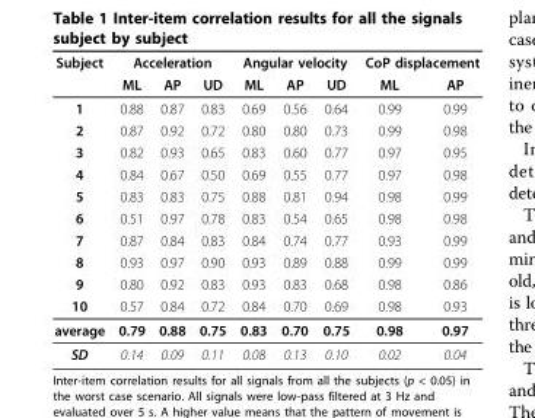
<table><thead><tr><td rowspan="2">Subject</td><td colspan="3">Acceleration</td><td colspan="3">Angular velocity</td><td colspan="2">CoP displacement</td></tr><tr><td>ML</td><td>AP</td><td>UD</td><td>ML</td><td>AP</td><td>UD</td><td>ML</td><td>AP</td></tr></thead><tbody><tr><td>1</td><td>0.88</td><td>0.87</td><td>0.83</td><td>0.69</td><td>0.56</td><td>0.64</td><td>0.99</td><td>0.99</td></tr><tr><td>2</td><td>0.87</td><td>0.92</td><td>0.72</td><td>0.80</td><td>0.80</td><td>0.73</td><td>0.99</td><td>0.98</td></tr><tr><td>3</td><td>0.82</td><td>0.93</td><td>0.65</td><td>0.83</td><td>0.60</td><td>0.77</td><td>0.97</td><td>0.95</td></tr><tr><td>4</td><td>0.84</td><td>0.67</td><td>0.50</td><td>0.69</td><td>0.55</td><td>0.77</td><td>0.97</td><td>0.98</td></tr><tr><td>5</td><td>0.83</td><td>0.83</td><td>0.75</td><td>0.88</td><td>0.81</td><td>0.94</td><td>0.98</td><td>0.99</td></tr><tr><td>6</td><td>0.51</td><td>0.97</td><td>0.78</td><td>0.83</td><td>0.54</td><td>0.65</td><td>0.98</td><td>0.98</td></tr><tr><td>7</td><td>0.87</td><td>0.84</td><td>0.83</td><td>0.84</td><td>0.74</td><td>0.77</td><td>0.93</td><td>0.99</td></tr><tr><td>8</td><td>0.93</td><td>0.97</td><td>0.90</td><td>0.93</td><td>0.89</td><td>0.88</td><td>0.99</td><td>0.99</td></tr><tr><td>9</td><td>0.80</td><td>0.92</td><td>0.83</td><td>0.93</td><td>0.83</td><td>0.68</td><td>0.98</td><td>0.86</td></tr><tr><td>10</td><td>0.57</td><td>0.84</td><td>0.72</td><td>0.84</td><td>0.70</td><td>0.69</td><td>0.98</td><td>0.93</td></tr><tr><td>average</td><td>0.79</td><td>0.88</td><td>0.75</td><td>0.83</td><td>0.70</td><td>0.75</td><td>0.98</td><td>0.97</td></tr><tr><td>SD</td><td>0.14</td><td>0.09</td><td>0.11</td><td>0.08</td><td>0.13</td><td>0.10</td><td>0.02</td><td>0.04</td></tr></tbody></table>